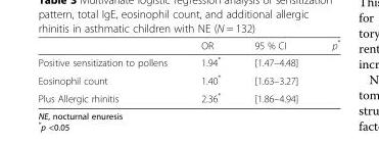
<table><thead><tr><td></td><td>OR</td><td>95 % CI</td><td>p*</td></tr></thead><tbody><tr><td>Positive sensitization to pollens</td><td>1.94*</td><td>[1.47–4.48]</td><td></td></tr><tr><td>Eosinophil count</td><td>1.40*</td><td>[1.63–3.27]</td><td></td></tr><tr><td>Plus Allergic rhinitis</td><td>2.36*</td><td>[1.86–4.94]</td><td></td></tr></tbody></table>